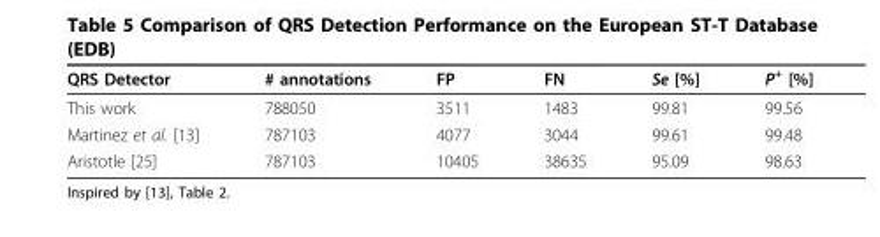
<table><thead><tr><td>QRS Detector</td><td># annotations</td><td>FP</td><td>FN</td><td>Se [%]</td><td>P<sup>+</sup> [%]</td></tr></thead><tbody><tr><td>This work</td><td>788050</td><td>3511</td><td>1483</td><td>99.81</td><td>99.56</td></tr><tr><td>Martinez et al. [13]</td><td>787103</td><td>4077</td><td>3044</td><td>99.61</td><td>99.48</td></tr><tr><td>Aristotle [25]</td><td>787103</td><td>10405</td><td>38635</td><td>95.09</td><td>98.63</td></tr></tbody></table>